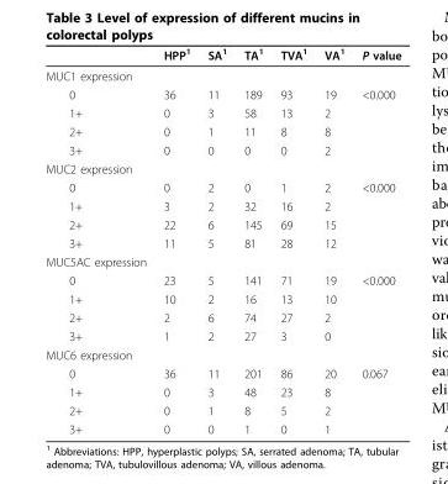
<table><thead><tr><td></td><td>HPP<sup>1</sup></td><td>SA<sup>1</sup></td><td>TA<sup>1</sup></td><td>TVA<sup>1</sup></td><td>VA<sup>1</sup></td><td>P value</td></tr></thead><tbody><tr><td colspan="7">MUC1 expression</td></tr><tr><td>0</td><td>36</td><td>11</td><td>189</td><td>93</td><td>19</td><td>&lt;0.000</td></tr><tr><td>1+</td><td>0</td><td>3</td><td>58</td><td>13</td><td>2</td><td></td></tr><tr><td>2+</td><td>0</td><td>1</td><td>11</td><td>8</td><td>8</td><td></td></tr><tr><td>3+</td><td>0</td><td>0</td><td>0</td><td>0</td><td>2</td><td></td></tr><tr><td colspan="7">MUC2 expression</td></tr><tr><td>0</td><td>0</td><td>2</td><td>0</td><td>1</td><td>2</td><td>&lt;0.000</td></tr><tr><td>1+</td><td>3</td><td>2</td><td>32</td><td>16</td><td>2</td><td></td></tr><tr><td>2+</td><td>22</td><td>6</td><td>145</td><td>69</td><td>15</td><td></td></tr><tr><td>3+</td><td>11</td><td>5</td><td>81</td><td>28</td><td>12</td><td></td></tr><tr><td colspan="7">MUC5AC expression</td></tr><tr><td>0</td><td>23</td><td>5</td><td>141</td><td>71</td><td>19</td><td>&lt;0.000</td></tr><tr><td>1+</td><td>10</td><td>2</td><td>16</td><td>13</td><td>10</td><td></td></tr><tr><td>2+</td><td>2</td><td>6</td><td>74</td><td>27</td><td>2</td><td></td></tr><tr><td>3+</td><td>1</td><td>2</td><td>27</td><td>3</td><td>0</td><td></td></tr><tr><td colspan="7">MUC6 expression</td></tr><tr><td>0</td><td>36</td><td>11</td><td>201</td><td>86</td><td>20</td><td>0.067</td></tr><tr><td>1+</td><td>0</td><td>3</td><td>48</td><td>23</td><td>8</td><td></td></tr><tr><td>2+</td><td>0</td><td>1</td><td>8</td><td>5</td><td>2</td><td></td></tr><tr><td>3+</td><td>0</td><td>0</td><td>1</td><td>0</td><td>1</td><td></td></tr></tbody></table>